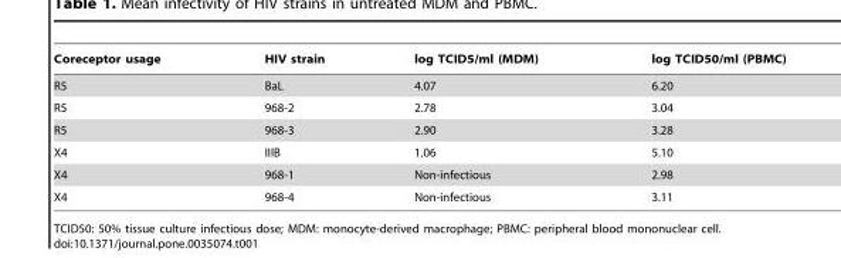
<table><thead><tr><td>Coreceptor usage</td><td>HIV strain</td><td>log TCID5/ml (MDM)</td><td>log TCID50/ml (PBMC)</td></tr></thead><tbody><tr><td>R5</td><td>BaL</td><td>4.07</td><td>6.20</td></tr><tr><td>R5</td><td>968-2</td><td>2.78</td><td>3.04</td></tr><tr><td>R5</td><td>968-3</td><td>2.90</td><td>3.28</td></tr><tr><td>X4</td><td>IIIB</td><td>1.06</td><td>5.10</td></tr><tr><td>X4</td><td>968-1</td><td>Non-infectious</td><td>2.98</td></tr><tr><td>X4</td><td>968-4</td><td>Non-infectious</td><td>3.11</td></tr></tbody></table>